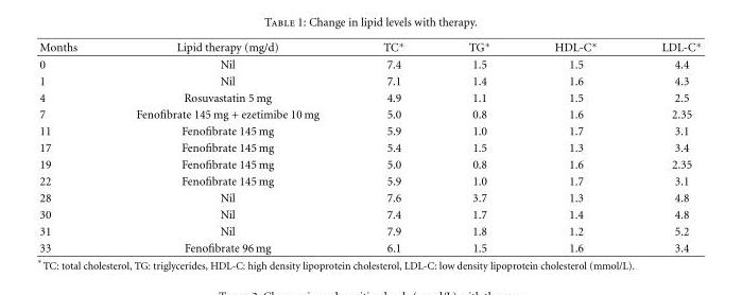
<table><thead><tr><td>Months</td><td>Lipid therapy (mg/d)</td><td>TC∗</td><td>TG∗</td><td>HDL-C∗</td><td>LDL-C∗</td></tr></thead><tbody><tr><td>0</td><td>Nil</td><td>7.4</td><td>1.5</td><td>1.5</td><td>4.4</td></tr><tr><td>1</td><td>Nil</td><td>7.1</td><td>1.4</td><td>1.6</td><td>4.3</td></tr><tr><td>4</td><td>Rosuvastatin 5 mg</td><td>4.9</td><td>1.1</td><td>1.5</td><td>2.5</td></tr><tr><td>7</td><td>Fenofibrate 145 mg + ezetimibe 10 mg</td><td>5.0</td><td>0.8</td><td>1.6</td><td>2.35</td></tr><tr><td>11</td><td>Fenofibrate 145 mg</td><td>5.9</td><td>1.0</td><td>1.7</td><td>3.1</td></tr><tr><td>17</td><td>Fenofibrate 145 mg</td><td>5.4</td><td>1.5</td><td>1.3</td><td>3.4</td></tr><tr><td>19</td><td>Fenofibrate 145 mg</td><td>5.0</td><td>0.8</td><td>1.6</td><td>2.35</td></tr><tr><td>22</td><td>Fenofibrate 145 mg</td><td>5.9</td><td>1.0</td><td>1.7</td><td>3.1</td></tr><tr><td>28</td><td>Nil</td><td>7.6</td><td>3.7</td><td>1.3</td><td>4.8</td></tr><tr><td>30</td><td>Nil</td><td>7.4</td><td>1.7</td><td>1.4</td><td>4.8</td></tr><tr><td>31</td><td>Nil</td><td>7.9</td><td>1.8</td><td>1.2</td><td>5.2</td></tr><tr><td>33</td><td>Fenofibrate 96 mg</td><td>6.1</td><td>1.5</td><td>1.6</td><td>3.4</td></tr></tbody></table>